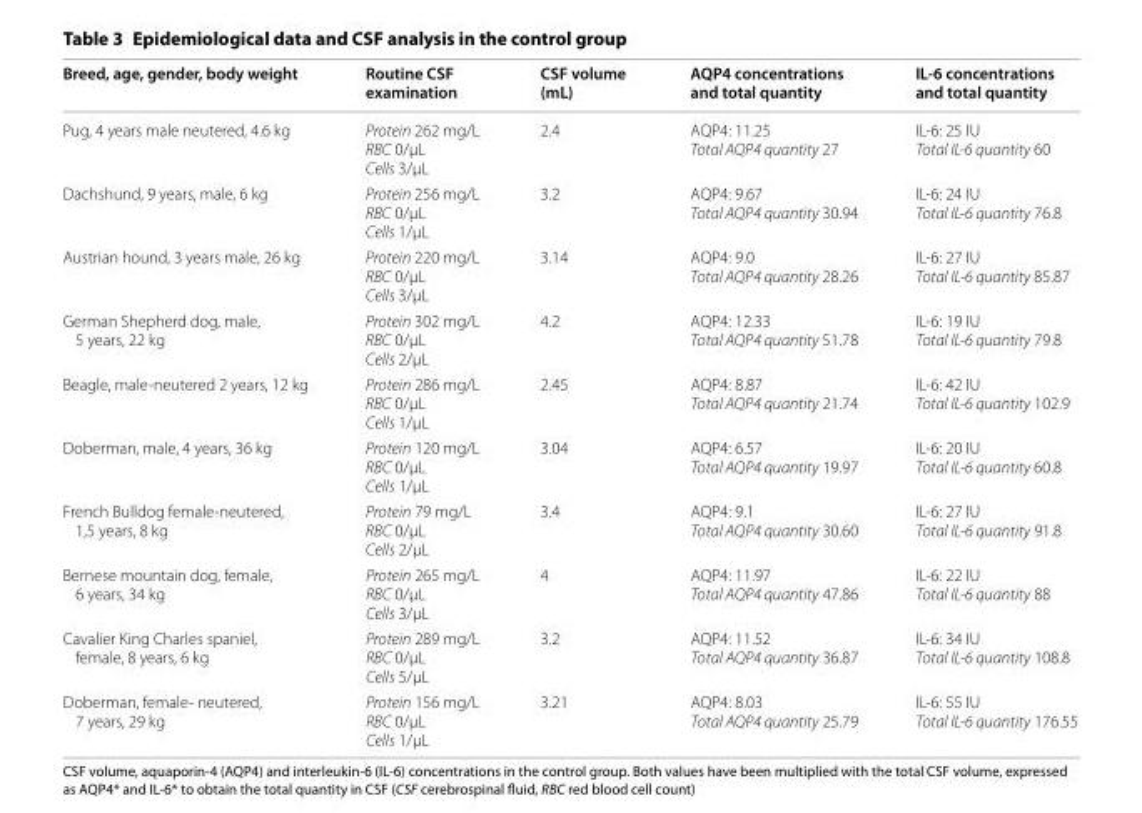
<table><thead><tr><td>Breed, age, gender, body weight</td><td>Routine CSF examination</td><td>CSF volume (mL)</td><td>AQP4 concentrations and total quantity</td><td>IL‑6 concentrations and total quantity</td></tr></thead><tbody><tr><td>Pug, 4 years male neutered, 4.6 kg</td><td>Protein 262 mg/L RBC 0/μL Cells 3/μL</td><td>2.4</td><td>AQP4: 11.25 Total AQP4 quantity 27</td><td>IL-6: 25 IU Total IL-6 quantity 60</td></tr><tr><td>Dachshund, 9 years, male, 6 kg</td><td>Protein 256 mg/L RBC 0/μL Cells 1/μL</td><td>3.2</td><td>AQP4: 9.67 Total AQP4 quantity 30.94</td><td>IL-6: 24 IU Total IL-6 quantity 76.8</td></tr><tr><td>Austrian hound, 3 years male, 26 kg</td><td>Protein 220 mg/L RBC 0/μL Cells 3/μL</td><td>3.14</td><td>AQP4: 9.0 Total AQP4 quantity 28.26</td><td>IL-6: 27 IU Total IL-6 quantity 85.87</td></tr><tr><td>German Shepherd dog, male, 5 years, 22 kg</td><td>Protein 302 mg/L RBC 0/μL Cells 2/μL</td><td>4.2</td><td>AQP4: 12.33 Total AQP4 quantity 51.78</td><td>IL-6: 19 IU Total IL-6 quantity 79.8</td></tr><tr><td>Beagle, male-neutered 2 years, 12 kg</td><td>Protein 286 mg/L RBC 0/μL Cells 1/μL</td><td>2.45</td><td>AQP4: 8.87 Total AQP4 quantity 21.74</td><td>IL-6: 42 IU Total IL-6 quantity 102.9</td></tr><tr><td>Doberman, male, 4 years, 36 kg</td><td>Protein 120 mg/L RBC 0/μL Cells 1/μL</td><td>3.04</td><td>AQP4: 6.57 Total AQP4 quantity 19.97</td><td>IL-6: 20 IU Total IL-6 quantity 60.8</td></tr><tr><td>French Bulldog female-neutered, 1,5 years, 8 kg</td><td>Protein 79 mg/L RBC 0/μL Cells 2/μL</td><td>3.4</td><td>AQP4: 9.1 Total AQP4 quantity 30.60</td><td>IL-6: 27 IU Total IL-6 quantity 91.8</td></tr><tr><td>Bernese mountain dog, female, 6 years, 34 kg</td><td>Protein 265 mg/L RBC 0/μL Cells 3/μL</td><td>4</td><td>AQP4: 11.97 Total AQP4 quantity 47.86</td><td>IL-6: 22 IU Total IL-6 quantity 88</td></tr><tr><td>Cavalier King Charles spaniel, female, 8 years, 6 kg</td><td>Protein 289 mg/L RBC 0/μL Cells 5/μL</td><td>3.2</td><td>AQP4: 11.52 Total AQP4 quantity 36.87</td><td>IL-6: 34 IU Total IL-6 quantity 108.8</td></tr><tr><td>Doberman, female- neutered, 7 years, 29 kg</td><td>Protein 156 mg/L RBC 0/μL Cells 1/μL</td><td>3.21</td><td>AQP4: 8.03 Total AQP4 quantity 25.79</td><td>IL-6: 55 IU Total IL-6 quantity 176.55</td></tr></tbody></table>